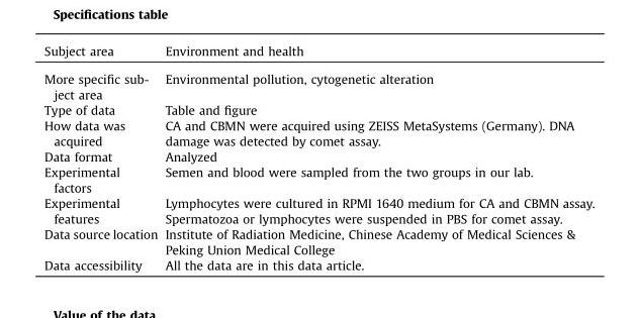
<table><thead><tr><td>Subject area</td><td>Environment and health</td></tr></thead><tbody><tr><td>More specific sub- ject area</td><td>Environmental pollution, cytogenetic alteration</td></tr><tr><td>Type of data</td><td>Table and figure</td></tr><tr><td>How data was acquired</td><td>CA and CBMN were acquired using ZEISS MetaSystems (Germany). DNA damage was detected by comet assay.</td></tr><tr><td>Data format</td><td>Analyzed</td></tr><tr><td>Experimental factors</td><td>Semen and blood were sampled from the two groups in our lab.</td></tr><tr><td>Experimental features</td><td>Lymphocytes were cultured in RPMI 1640 medium for CA and CBMN assay. Spermatozoa or lymphocytes were suspended in PBS for comet assay.</td></tr><tr><td>Data source location</td><td>Institute of Radiation Medicine, Chinese Academy of Medical Sciences &amp; Peking Union Medical College</td></tr><tr><td>Data accessibility</td><td>All the data are in this data article.</td></tr></tbody></table>